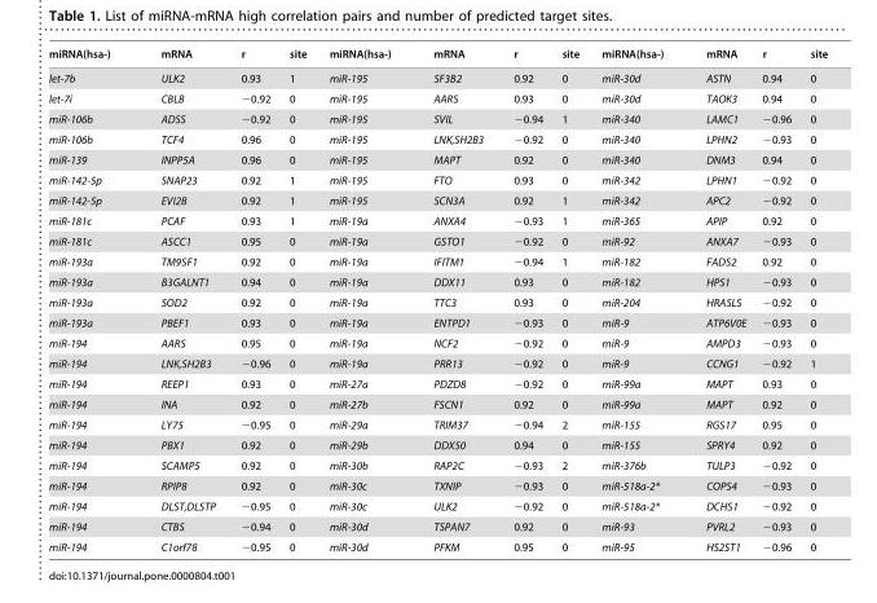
<table><thead><tr><td>miRNA(hsa-)</td><td>mRNA</td><td>r</td><td>site</td><td>miRNA(hsa-)</td><td>mRNA</td><td>r</td><td>site</td><td>miRNA(hsa-)</td><td>mRNA</td><td>r</td><td>site</td></tr></thead><tbody><tr><td>let-7b</td><td>ULK2</td><td>0.93</td><td>1</td><td>miR-195</td><td>SF3B2</td><td>0.92</td><td>0</td><td>miR-30d</td><td>ASTN</td><td>0.94</td><td>0</td></tr><tr><td>let-7i</td><td>CBLB</td><td>−0.92</td><td>0</td><td>miR-195</td><td>AARS</td><td>0.93</td><td>0</td><td>miR-30d</td><td>TAOK3</td><td>0.94</td><td>0</td></tr><tr><td>miR-106b</td><td>ADSS</td><td>−0.92</td><td>0</td><td>miR-195</td><td>SVIL</td><td>−0.94</td><td>1</td><td>miR-340</td><td>LAMC1</td><td>−0.96</td><td>0</td></tr><tr><td>miR-106b</td><td>TCF4</td><td>0.96</td><td>0</td><td>miR-195</td><td>LNK,SH2B3</td><td>−0.92</td><td>0</td><td>miR-340</td><td>LPHN2</td><td>−0.93</td><td>0</td></tr><tr><td>miR-139</td><td>INPP5A</td><td>0.96</td><td>0</td><td>miR-195</td><td>MAPT</td><td>0.92</td><td>0</td><td>miR-340</td><td>DNM3</td><td>0.94</td><td>0</td></tr><tr><td>miR-142-5p</td><td>SNAP23</td><td>0.92</td><td>1</td><td>miR-195</td><td>FTO</td><td>0.93</td><td>0</td><td>miR-342</td><td>LPHN1</td><td>−0.92</td><td>0</td></tr><tr><td>miR-142-5p</td><td>EVI2B</td><td>0.92</td><td>1</td><td>miR-195</td><td>SCN3A</td><td>0.92</td><td>1</td><td>miR-342</td><td>APC2</td><td>−0.92</td><td>0</td></tr><tr><td>miR-181c</td><td>PCAF</td><td>0.93</td><td>1</td><td>miR-19a</td><td>ANXA4</td><td>−0.93</td><td>1</td><td>miR-365</td><td>APIP</td><td>0.92</td><td>0</td></tr><tr><td>miR-181c</td><td>ASCC1</td><td>0.95</td><td>0</td><td>miR-19a</td><td>GSTO1</td><td>−0.92</td><td>0</td><td>miR-92</td><td>ANXA7</td><td>−0.93</td><td>0</td></tr><tr><td>miR-193a</td><td>TM9SF1</td><td>0.92</td><td>0</td><td>miR-19a</td><td>IFITM1</td><td>−0.94</td><td>1</td><td>miR-182</td><td>FADS2</td><td>0.92</td><td>0</td></tr><tr><td>miR-193a</td><td>B3GALNT1</td><td>0.94</td><td>0</td><td>miR-19a</td><td>DDX11</td><td>0.93</td><td>0</td><td>miR-182</td><td>HPS1</td><td>−0.93</td><td>0</td></tr><tr><td>miR-193a</td><td>SOD2</td><td>0.92</td><td>0</td><td>miR-19a</td><td>TTC3</td><td>0.93</td><td>0</td><td>miR-204</td><td>HRASLS</td><td>−0.92</td><td>0</td></tr><tr><td>miR-193a</td><td>PBEF1</td><td>0.93</td><td>0</td><td>miR-19a</td><td>ENTPD1</td><td>−0.93</td><td>0</td><td>miR-9</td><td>ATP6V0E</td><td>−0.93</td><td>0</td></tr><tr><td>miR-194</td><td>AARS</td><td>0.95</td><td>0</td><td>miR-19a</td><td>NCF2</td><td>−0.92</td><td>0</td><td>miR-9</td><td>AMPD3</td><td>−0.93</td><td>0</td></tr><tr><td>miR-194</td><td>LNK,SH2B3</td><td>−0.96</td><td>0</td><td>miR-19a</td><td>PRR13</td><td>−0.92</td><td>0</td><td>miR-9</td><td>CCNG1</td><td>−0.92</td><td>1</td></tr><tr><td>miR-194</td><td>REEP1</td><td>0.93</td><td>0</td><td>miR-27a</td><td>PDZD8</td><td>−0.92</td><td>0</td><td>miR-99a</td><td>MAPT</td><td>0.93</td><td>0</td></tr><tr><td>miR-194</td><td>INA</td><td>0.92</td><td>0</td><td>miR-27b</td><td>FSCN1</td><td>0.92</td><td>0</td><td>miR-99a</td><td>MAPT</td><td>0.92</td><td>0</td></tr><tr><td>miR-194</td><td>LY75</td><td>−0.95</td><td>0</td><td>miR-29a</td><td>TRIM37</td><td>−0.94</td><td>2</td><td>miR-155</td><td>RGS17</td><td>0.95</td><td>0</td></tr><tr><td>miR-194</td><td>PBX1</td><td>0.92</td><td>0</td><td>miR-29b</td><td>DDX50</td><td>0.94</td><td>0</td><td>miR-155</td><td>SPRY4</td><td>0.92</td><td>0</td></tr><tr><td>miR-194</td><td>SCAMP5</td><td>0.92</td><td>0</td><td>miR-30b</td><td>RAP2C</td><td>−0.93</td><td>2</td><td>miR-376b</td><td>TULP3</td><td>−0.92</td><td>0</td></tr><tr><td>miR-194</td><td>RPIP8</td><td>0.92</td><td>0</td><td>miR-30c</td><td>TXNIP</td><td>−0.93</td><td>0</td><td>miR-518a-2*</td><td>COPS4</td><td>−0.93</td><td>0</td></tr><tr><td>miR-194</td><td>DLST,DLSTP</td><td>−0.95</td><td>0</td><td>miR-30c</td><td>ULK2</td><td>−0.92</td><td>0</td><td>miR-518a-2*</td><td>DCHS1</td><td>−0.92</td><td>0</td></tr><tr><td>miR-194</td><td>CTBS</td><td>−0.94</td><td>0</td><td>miR-30d</td><td>TSPAN7</td><td>0.92</td><td>0</td><td>miR-93</td><td>PVRL2</td><td>−0.93</td><td>0</td></tr><tr><td>miR-194</td><td>C1orf78</td><td>−0.95</td><td>0</td><td>miR-30d</td><td>PFKM</td><td>0.95</td><td>0</td><td>miR-95</td><td>HS2ST1</td><td>−0.96</td><td>0</td></tr></tbody></table>